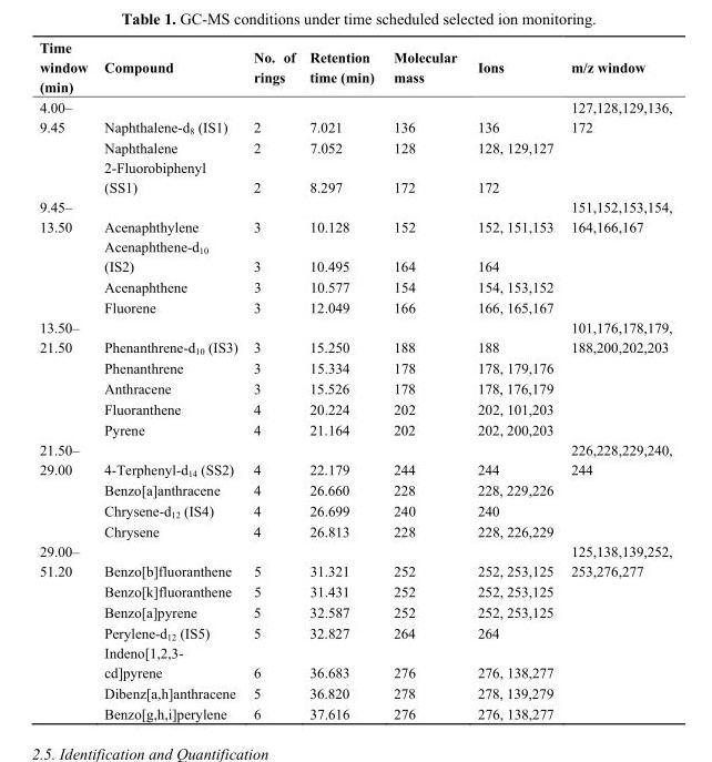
<table><thead><tr><td>Time window (min)</td><td>Compound</td><td>No. of rings</td><td>Retention time (min)</td><td>Molecular mass</td><td>Ions</td><td>m/z window</td></tr></thead><tbody><tr><td rowspan="3">4.00– 9.45</td><td>Naphthalene-d<sub>8</sub> (IS1)</td><td>2</td><td>7.021</td><td>136</td><td>136</td><td>127,128,129,136, 172</td></tr><tr><td>Naphthalene</td><td>2</td><td>7.052</td><td>128</td><td>128, 129,127</td><td></td></tr><tr><td>2-Fluorobiphenyl (SS1)</td><td>2</td><td>8.297</td><td>172</td><td>172</td><td></td></tr><tr><td rowspan="4">9.45– 13.50</td><td>Acenaphthylene</td><td>3</td><td>10.128</td><td>152</td><td>152, 151,153</td><td>151,152,153,154, 164,166,167</td></tr><tr><td>Acenaphthene-d<sub>10</sub> (IS2)</td><td>3</td><td>10.495</td><td>164</td><td>164</td><td></td></tr><tr><td>Acenaphthene</td><td>3</td><td>10.577</td><td>154</td><td>154, 153,152</td><td></td></tr><tr><td>Fluorene</td><td>3</td><td>12.049</td><td>166</td><td>166, 165,167</td><td></td></tr><tr><td rowspan="5">13.50– 21.50</td><td>Phenanthrene-d<sub>10</sub> (IS3)</td><td>3</td><td>15.250</td><td>188</td><td>188</td><td>101,176,178,179, 188,200,202,203</td></tr><tr><td>Phenanthrene</td><td>3</td><td>15.334</td><td>178</td><td>178, 179,176</td><td></td></tr><tr><td>Anthracene</td><td>3</td><td>15.526</td><td>178</td><td>178, 176,179</td><td></td></tr><tr><td>Fluoranthene</td><td>4</td><td>20.224</td><td>202</td><td>202, 101,203</td><td></td></tr><tr><td>Pyrene</td><td>4</td><td>21.164</td><td>202</td><td>202, 200,203</td><td></td></tr><tr><td rowspan="4">21.50– 29.00</td><td>4-Terphenyl-d<sub>14</sub> (SS2)</td><td>4</td><td>22.179</td><td>244</td><td>244</td><td>226,228,229,240, 244</td></tr><tr><td>Benzo[a]anthracene</td><td>4</td><td>26.660</td><td>228</td><td>228, 229,226</td><td></td></tr><tr><td>Chrysene-d<sub>12</sub> (IS4)</td><td>4</td><td>26.699</td><td>240</td><td>240</td><td></td></tr><tr><td>Chrysene</td><td>4</td><td>26.813</td><td>228</td><td>228, 226,229</td><td></td></tr><tr><td rowspan="7">29.00– 51.20</td><td>Benzo[b]fluoranthene</td><td>5</td><td>31.321</td><td>252</td><td>252, 253,125</td><td>125,138,139,252, 253,276,277</td></tr><tr><td>Benzo[k]fluoranthene</td><td>5</td><td>31.431</td><td>252</td><td>252, 253,125</td><td></td></tr><tr><td>Benzo[a]pyrene</td><td>5</td><td>32.587</td><td>252</td><td>252, 253,125</td><td></td></tr><tr><td>Perylene-d<sub>12</sub> (IS5)</td><td>5</td><td>32.827</td><td>264</td><td>264</td><td></td></tr><tr><td>Indeno[1,2,3- cd]pyrene</td><td>6</td><td>36.683</td><td>276</td><td>276, 138,277</td><td></td></tr><tr><td>Dibenz[a,h]anthracene</td><td>5</td><td>36.820</td><td>278</td><td>278, 139,279</td><td></td></tr><tr><td>Benzo[g,h,i]perylene</td><td>6</td><td>37.616</td><td>276</td><td>276, 138,277</td><td></td></tr></tbody></table>